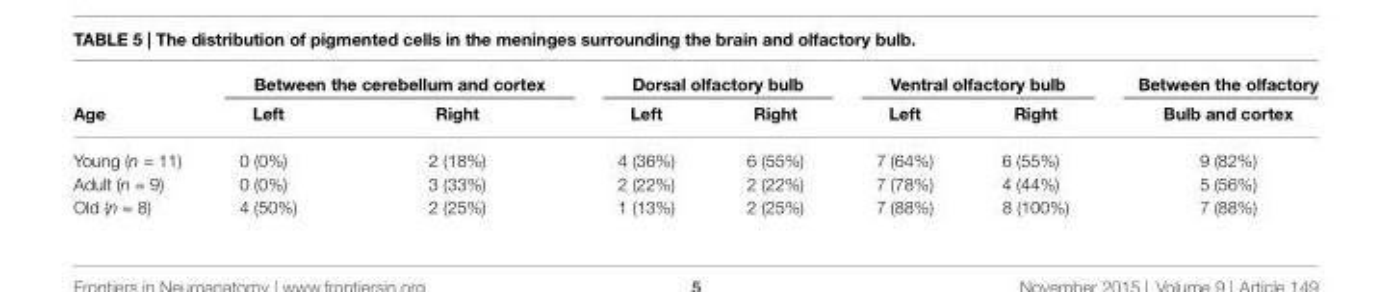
<table><thead><tr><td rowspan="2">Age</td><td colspan="2">Between the cerebellum and cortex</td><td colspan="2">Dorsal olfactory bulb</td><td colspan="2">Ventral olfactory bulb</td><td rowspan="2">Between the olfactory Bulb and cortex</td></tr><tr><td>Left</td><td>Right</td><td>Left</td><td>Right</td><td>Left</td><td>Right</td></tr></thead><tbody><tr><td>Young (n = 11)</td><td>0 (0%)</td><td>2 (18%)</td><td>4 (36%)</td><td>6 (55%)</td><td>7 (64%)</td><td>6 (55%)</td><td>9 (82%)</td></tr><tr><td>Adult (n = 9)</td><td>0 (0%)</td><td>3 (33%)</td><td>2 (22%)</td><td>2 (22%)</td><td>7 (78%)</td><td>4 (44%)</td><td>5 (56%)</td></tr><tr><td>Old (n = 8)</td><td>4 (50%)</td><td>2 (25%)</td><td>1 (13%)</td><td>2 (25%)</td><td>7 (88%)</td><td>8 (100%)</td><td>7 (88%)</td></tr></tbody></table>